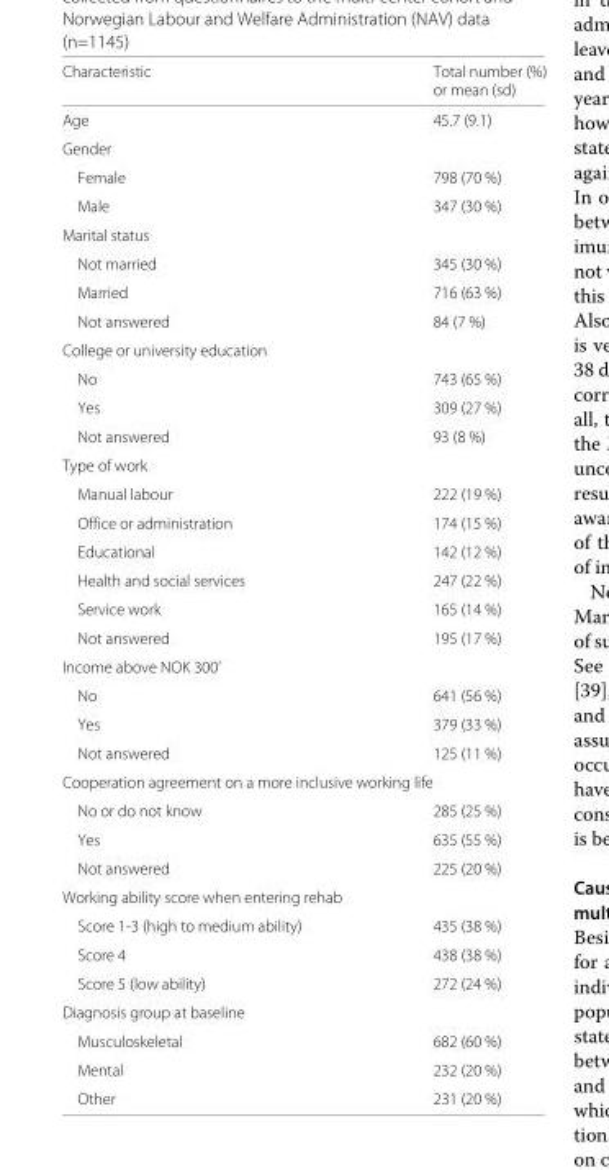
<table><thead><tr><td rowspan="2">Characteristic</td><td rowspan="2">Total number (%) or mean (sd)</td></tr><tr></tr></thead><tbody><tr><td>Age</td><td>45.7 (9.1)</td></tr><tr><td colspan="2">Gender</td></tr><tr><td>Female</td><td>798 (70 %)</td></tr><tr><td>Male</td><td>347 (30 %)</td></tr><tr><td colspan="2">Marital status</td></tr><tr><td>Not married</td><td>345 (30 %)</td></tr><tr><td>Married</td><td>716 (63 %)</td></tr><tr><td>Not answered</td><td>84 (7 %)</td></tr><tr><td colspan="2">College or university education</td></tr><tr><td>No</td><td>743 (65 %)</td></tr><tr><td>Yes</td><td>309 (27 %)</td></tr><tr><td>Not answered</td><td>93 (8 %)</td></tr><tr><td colspan="2">Type of work</td></tr><tr><td>Manual labour</td><td>222 (19 %)</td></tr><tr><td>Office or administration</td><td>174 (15 %)</td></tr><tr><td>Educational</td><td>142 (12 %)</td></tr><tr><td>Health and social services</td><td>247 (22 %)</td></tr><tr><td>Service work</td><td>165 (14 %)</td></tr><tr><td>Not answered</td><td>195 (17 %)</td></tr><tr><td colspan="2">Income above NOK 300’</td></tr><tr><td>No</td><td>641 (56 %)</td></tr><tr><td>Yes</td><td>379 (33 %)</td></tr><tr><td>Not answered</td><td>125 (11 %)</td></tr><tr><td colspan="2">Cooperation agreement on a more inclusive working life</td></tr><tr><td>No or do not know</td><td>285 (25 %)</td></tr><tr><td>Yes</td><td>635 (55 %)</td></tr><tr><td>Not answered</td><td>225 (20 %)</td></tr><tr><td colspan="2">Working ability score when entering rehab</td></tr><tr><td>Score 1-3 (high to medium ability)</td><td>435 (38 %)</td></tr><tr><td>Score 4</td><td>438 (38 %)</td></tr><tr><td>Score 5 (low ability)</td><td>272 (24 %)</td></tr><tr><td colspan="2">Diagnosis group at baseline</td></tr><tr><td>Musculoskeletal</td><td>682 (60 %)</td></tr><tr><td>Mental</td><td>232 (20 %)</td></tr><tr><td>Other</td><td>231 (20 %)</td></tr></tbody></table>